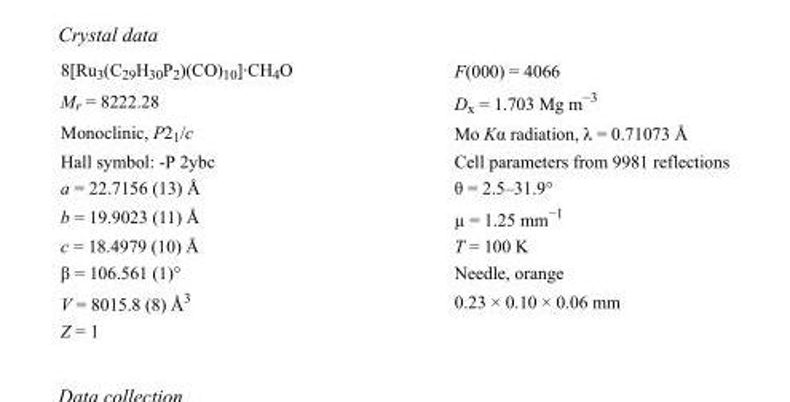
<table><tbody><tr><td>8[Ru<sub>3</sub>(C<sub>29</sub>H<sub>30</sub>P<sub>2</sub>)(CO)<sub>10</sub>]·CH<sub>4</sub>O</td><td>F(000) = 4066</td></tr><tr><td>M<sub>r</sub> = 8222.28</td><td>D<sub>x</sub> = 1.703 Mg m<sup>−3</sup></td></tr><tr><td>Monoclinic, P2<sub>1</sub>/c</td><td>Mo Kα radiation, λ = 0.71073 Å</td></tr><tr><td>Hall symbol: -P 2ybc</td><td>Cell parameters from 9981 reflections</td></tr><tr><td>a = 22.7156 (13) Å</td><td>θ = 2.5–31.9°</td></tr><tr><td>b = 19.9023 (11) Å</td><td>µ = 1.25 mm<sup>−1</sup></td></tr><tr><td>c = 18.4979 (10) Å</td><td>T = 100 K</td></tr><tr><td>β = 106.561 (1)°</td><td>Needle, orange</td></tr><tr><td>V = 8015.8 (8) Å<sup>3</sup></td><td>0.23 × 0.10 × 0.06 mm</td></tr><tr><td>Z = 1</td><td></td></tr></tbody></table>